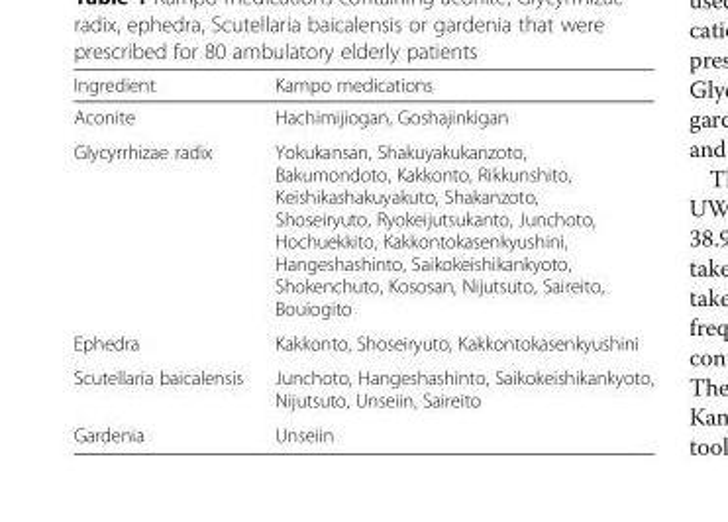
<table><thead><tr><td>Ingredient</td><td>Kampo medications</td></tr></thead><tbody><tr><td>Aconite</td><td>Hachimijiogan, Goshajinkigan</td></tr><tr><td>Glycyrrhizae radix</td><td>Yokukansan, Shakuyakukanzoto, Bakumondoto, Kakkonto, Rikkunshito, Keishikashakuyakuto, Shakanzoto, Shoseiryuto, Ryokeijutsukanto, Junchoto, Hochuekkito, Kakkontokasenkyushini, Hangeshashinto, Saikokeishikankyoto, Shokenchuto, Kososan, Nijutsuto, Saireito, Bouiogito</td></tr><tr><td>Ephedra</td><td>Kakkonto, Shoseiryuto, Kakkontokasenkyushini</td></tr><tr><td>Scutellaria baicalensis</td><td>Junchoto, Hangeshashinto, Saikokeishikankyoto, Nijutsuto, Unseiin, Saireito</td></tr><tr><td>Gardenia</td><td>Unseiin</td></tr></tbody></table>